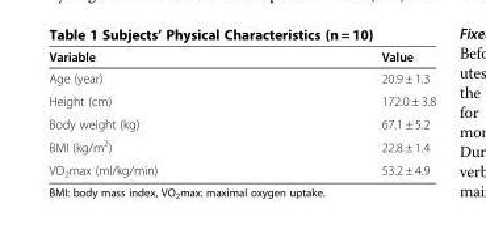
<table><thead><tr><td>Variable</td><td>Value</td></tr></thead><tbody><tr><td>Age (year)</td><td>20.9 ± 1.3</td></tr><tr><td>Height (cm)</td><td>172.0 ± 3.8</td></tr><tr><td>Body weight (kg)</td><td>67.1 ± 5.2</td></tr><tr><td>BMI (kg/m<sup>2</sup>)</td><td>22.8 ± 1.4</td></tr><tr><td>VO<sub>2</sub>max (ml/kg/min)</td><td>53.2 ± 4.9</td></tr></tbody></table>